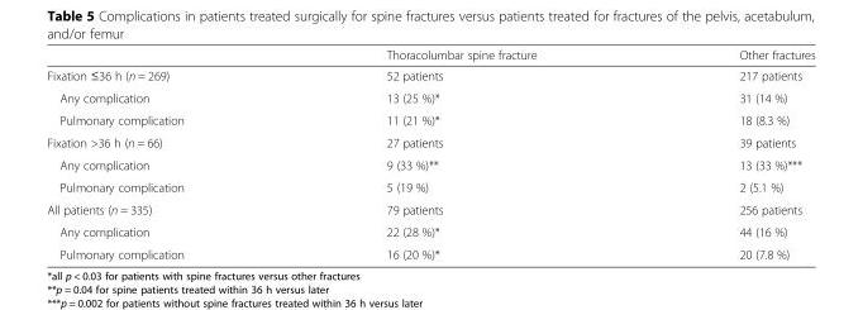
<table><thead><tr><td></td><td>Thoracolumbar spine fracture</td><td>Other fractures</td></tr></thead><tbody><tr><td>Fixation ≤36 h (n = 269)</td><td>52 patients</td><td>217 patients</td></tr><tr><td>Any complication</td><td>13 (25 %)*</td><td>31 (14 %)</td></tr><tr><td>Pulmonary complication</td><td>11 (21 %)*</td><td>18 (8.3 %)</td></tr><tr><td>Fixation &gt;36 h (n = 66)</td><td>27 patients</td><td>39 patients</td></tr><tr><td>Any complication</td><td>9 (33 %)**</td><td>13 (33 %)***</td></tr><tr><td>Pulmonary complication</td><td>5 (19 %)</td><td>2 (5.1 %)</td></tr><tr><td>All patients (n = 335)</td><td>79 patients</td><td>256 patients</td></tr><tr><td>Any complication</td><td>22 (28 %)*</td><td>44 (16 %)</td></tr><tr><td>Pulmonary complication</td><td>16 (20 %)*</td><td>20 (7.8 %)</td></tr></tbody></table>